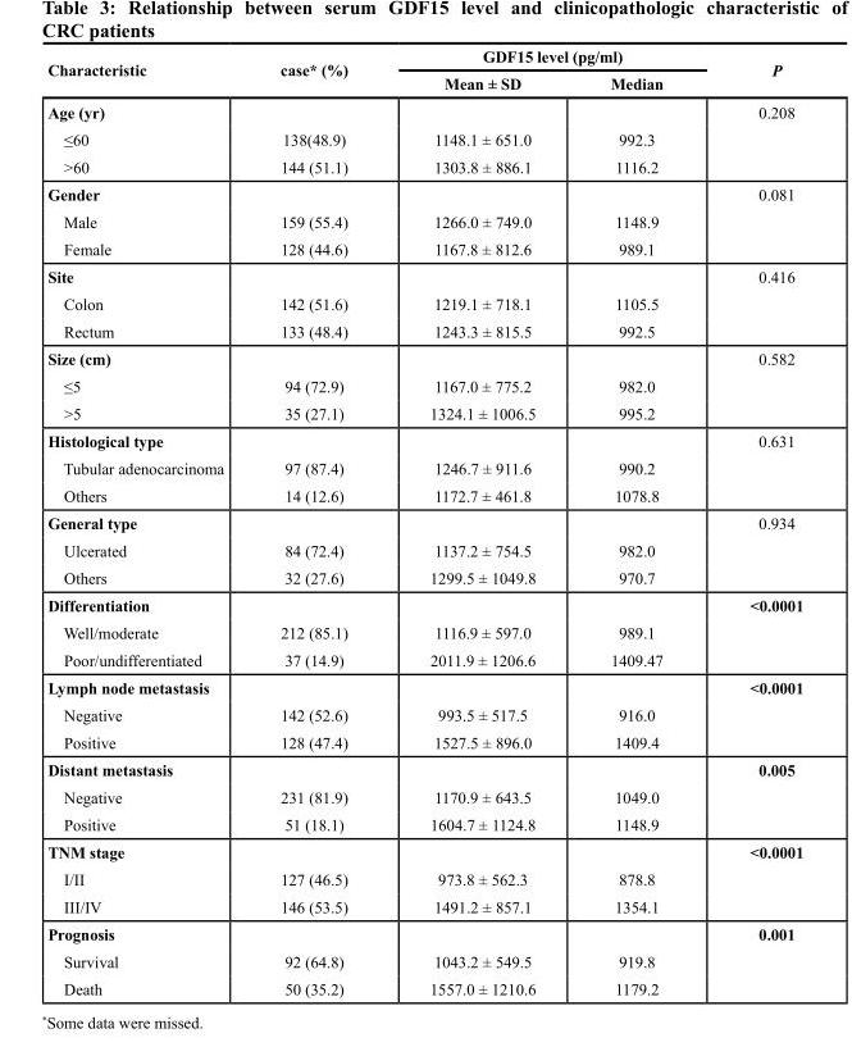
<table><thead><tr><td rowspan="2">Characteristic</td><td rowspan="2">case* (%)</td><td colspan="2">GDF15 level (pg/ml)</td><td rowspan="2">P</td></tr><tr><td>Mean ± SD</td><td>Median</td></tr></thead><tbody><tr><td>Age (yr)</td><td></td><td></td><td></td><td>0.208</td></tr><tr><td>≤60</td><td>138(48.9)</td><td>1148.1 ± 651.0</td><td>992.3</td><td></td></tr><tr><td>&gt;60</td><td>144 (51.1)</td><td>1303.8 ± 886.1</td><td>1116.2</td><td></td></tr><tr><td>Gender</td><td></td><td></td><td></td><td>0.081</td></tr><tr><td>Male</td><td>159 (55.4)</td><td>1266.0 ± 749.0</td><td>1148.9</td><td></td></tr><tr><td>Female</td><td>128 (44.6)</td><td>1167.8 ± 812.6</td><td>989.1</td><td></td></tr><tr><td>Site</td><td></td><td></td><td></td><td>0.416</td></tr><tr><td>Colon</td><td>142 (51.6)</td><td>1219.1 ± 718.1</td><td>1105.5</td><td></td></tr><tr><td>Rectum</td><td>133 (48.4)</td><td>1243.3 ± 815.5</td><td>992.5</td><td></td></tr><tr><td>Size (cm)</td><td></td><td></td><td></td><td>0.582</td></tr><tr><td>≤5</td><td>94 (72.9)</td><td>1167.0 ± 775.2</td><td>982.0</td><td></td></tr><tr><td>&gt;5</td><td>35 (27.1)</td><td>1324.1 ± 1006.5</td><td>995.2</td><td></td></tr><tr><td>Histological type</td><td></td><td></td><td></td><td>0.631</td></tr><tr><td>Tubular adenocarcinoma</td><td>97 (87.4)</td><td>1246.7 ± 911.6</td><td>990.2</td><td></td></tr><tr><td>Others</td><td>14 (12.6)</td><td>1172.7 ± 461.8</td><td>1078.8</td><td></td></tr><tr><td>General type</td><td></td><td></td><td></td><td>0.934</td></tr><tr><td>Ulcerated</td><td>84 (72.4)</td><td>1137.2 ± 754.5</td><td>982.0</td><td></td></tr><tr><td>Others</td><td>32 (27.6)</td><td>1299.5 ± 1049.8</td><td>970.7</td><td></td></tr><tr><td>Differentiation</td><td></td><td></td><td></td><td>&lt;0.0001</td></tr><tr><td>Well/moderate</td><td>212 (85.1)</td><td>1116.9 ± 597.0</td><td>989.1</td><td></td></tr><tr><td>Poor/undifferentiated</td><td>37 (14.9)</td><td>2011.9 ± 1206.6</td><td>1409.47</td><td></td></tr><tr><td>Lymph node metastasis</td><td></td><td></td><td></td><td>&lt;0.0001</td></tr><tr><td>Negative</td><td>142 (52.6)</td><td>993.5 ± 517.5</td><td>916.0</td><td></td></tr><tr><td>Positive</td><td>128 (47.4)</td><td>1527.5 ± 896.0</td><td>1409.4</td><td></td></tr><tr><td>Distant metastasis</td><td></td><td></td><td></td><td>0.005</td></tr><tr><td>Negative</td><td>231 (81.9)</td><td>1170.9 ± 643.5</td><td>1049.0</td><td></td></tr><tr><td>Positive</td><td>51 (18.1)</td><td>1604.7 ± 1124.8</td><td>1148.9</td><td></td></tr><tr><td>TNM stage</td><td></td><td></td><td></td><td>&lt;0.0001</td></tr><tr><td>I/II</td><td>127 (46.5)</td><td>973.8 ± 562.3</td><td>878.8</td><td></td></tr><tr><td>III/IV</td><td>146 (53.5)</td><td>1491.2 ± 857.1</td><td>1354.1</td><td></td></tr><tr><td>Prognosis</td><td></td><td></td><td></td><td>0.001</td></tr><tr><td>Survival</td><td>92 (64.8)</td><td>1043.2 ± 549.5</td><td>919.8</td><td></td></tr><tr><td>Death</td><td>50 (35.2)</td><td>1557.0 ± 1210.6</td><td>1179.2</td><td></td></tr></tbody></table>